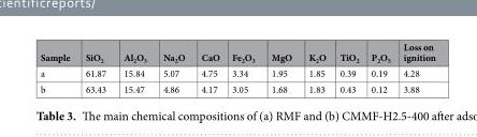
<table><thead><tr><td>Sample</td><td>SiO<sub>2</sub></td><td>Al<sub>2</sub>O<sub>3</sub></td><td>Na<sub>2</sub>O</td><td>CaO</td><td>Fe<sub>2</sub>O<sub>3</sub></td><td>MgO</td><td>K<sub>2</sub>O</td><td>TiO<sub>2</sub></td><td>P<sub>2</sub>O<sub>5</sub></td><td>Loss on ignition</td></tr></thead><tbody><tr><td>a</td><td>61.87</td><td>15.84</td><td>5.07</td><td>4.75</td><td>3.34</td><td>1.95</td><td>1.85</td><td>0.39</td><td>0.19</td><td>4.28</td></tr><tr><td>b</td><td>63.43</td><td>15.47</td><td>4.86</td><td>4.17</td><td>3.05</td><td>1.68</td><td>1.83</td><td>0.43</td><td>0.12</td><td>3.88</td></tr></tbody></table>